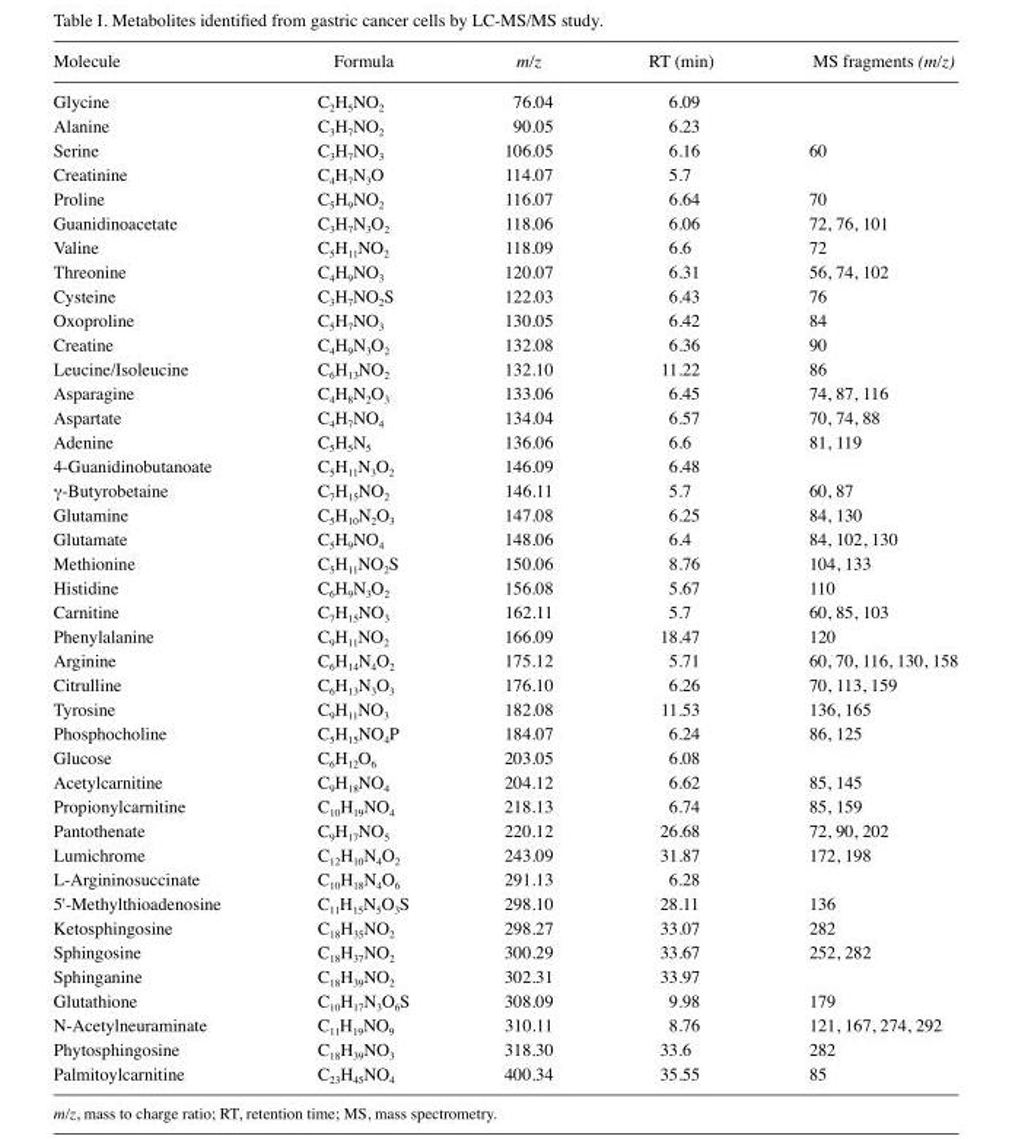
<table><thead><tr><td>Molecule</td><td>Formula</td><td>m/z</td><td>RT (min)</td><td>MS fragments (m/z)</td></tr></thead><tbody><tr><td>Glycine</td><td>C<sub>2</sub>H<sub>5</sub>NO<sub>2</sub></td><td>76.04</td><td>6.09</td><td></td></tr><tr><td>Alanine</td><td>C<sub>3</sub>H<sub>7</sub>NO<sub>2</sub></td><td>90.05</td><td>6.23</td><td></td></tr><tr><td>Serine</td><td>C<sub>3</sub>H<sub>7</sub>NO<sub>3</sub></td><td>106.05</td><td>6.16</td><td>60</td></tr><tr><td>Creatinine</td><td>C<sub>4</sub>H<sub>7</sub>N<sub>3</sub>O</td><td>114.07</td><td>5.7</td><td></td></tr><tr><td>Proline</td><td>C<sub>5</sub>H<sub>9</sub>NO<sub>2</sub></td><td>116.07</td><td>6.64</td><td>70</td></tr><tr><td>Guanidinoacetate</td><td>C<sub>3</sub>H<sub>7</sub>N<sub>3</sub>O<sub>2</sub></td><td>118.06</td><td>6.06</td><td>72, 76, 101</td></tr><tr><td>Valine</td><td>C<sub>5</sub>H<sub>11</sub>NO<sub>2</sub></td><td>118.09</td><td>6.6</td><td>72</td></tr><tr><td>Threonine</td><td>C<sub>4</sub>H<sub>9</sub>NO<sub>3</sub></td><td>120.07</td><td>6.31</td><td>56, 74, 102</td></tr><tr><td>Cysteine</td><td>C<sub>3</sub>H<sub>7</sub>NO<sub>2</sub>S</td><td>122.03</td><td>6.43</td><td>76</td></tr><tr><td>Oxoproline</td><td>C<sub>5</sub>H<sub>7</sub>NO<sub>3</sub></td><td>130.05</td><td>6.42</td><td>84</td></tr><tr><td>Creatine</td><td>C<sub>4</sub>H<sub>9</sub>N<sub>3</sub>O<sub>2</sub></td><td>132.08</td><td>6.36</td><td>90</td></tr><tr><td>Leucine/Isoleucine</td><td>C<sub>6</sub>H<sub>13</sub>NO<sub>2</sub></td><td>132.10</td><td>11.22</td><td>86</td></tr><tr><td>Asparagine</td><td>C<sub>4</sub>H<sub>8</sub>N<sub>2</sub>O<sub>3</sub></td><td>133.06</td><td>6.45</td><td>74, 87, 116</td></tr><tr><td>Aspartate</td><td>C<sub>4</sub>H<sub>7</sub>NO<sub>4</sub></td><td>134.04</td><td>6.57</td><td>70, 74, 88</td></tr><tr><td>Adenine</td><td>C<sub>5</sub>H<sub>5</sub>N<sub>5</sub></td><td>136.06</td><td>6.6</td><td>81, 119</td></tr><tr><td>4-Guanidinobutanoate</td><td>C<sub>5</sub>H<sub>11</sub>N<sub>3</sub>O<sub>2</sub></td><td>146.09</td><td>6.48</td><td></td></tr><tr><td>γ-Butyrobetaine</td><td>C<sub>7</sub>H<sub>15</sub>NO<sub>2</sub></td><td>146.11</td><td>5.7</td><td>60, 87</td></tr><tr><td>Glutamine</td><td>C<sub>5</sub>H<sub>10</sub>N<sub>2</sub>O<sub>3</sub></td><td>147.08</td><td>6.25</td><td>84, 130</td></tr><tr><td>Glutamate</td><td>C<sub>5</sub>H<sub>9</sub>NO<sub>4</sub></td><td>148.06</td><td>6.4</td><td>84, 102, 130</td></tr><tr><td>Methionine</td><td>C<sub>5</sub>H<sub>11</sub>NO<sub>2</sub>S</td><td>150.06</td><td>8.76</td><td>104, 133</td></tr><tr><td>Histidine</td><td>C<sub>6</sub>H<sub>9</sub>N<sub>3</sub>O<sub>2</sub></td><td>156.08</td><td>5.67</td><td>110</td></tr><tr><td>Carnitine</td><td>C<sub>7</sub>H<sub>15</sub>NO<sub>3</sub></td><td>162.11</td><td>5.7</td><td>60, 85, 103</td></tr><tr><td>Phenylalanine</td><td>C<sub>9</sub>H<sub>11</sub>NO<sub>2</sub></td><td>166.09</td><td>18.47</td><td>120</td></tr><tr><td>Arginine</td><td>C<sub>6</sub>H<sub>14</sub>N<sub>4</sub>O<sub>2</sub></td><td>175.12</td><td>5.71</td><td>60, 70, 116, 130, 158</td></tr><tr><td>Citrulline</td><td>C<sub>6</sub>H<sub>13</sub>N<sub>3</sub>O<sub>3</sub></td><td>176.10</td><td>6.26</td><td>70, 113, 159</td></tr><tr><td>Tyrosine</td><td>C<sub>9</sub>H<sub>11</sub>NO<sub>3</sub></td><td>182.08</td><td>11.53</td><td>136, 165</td></tr><tr><td>Phosphocholine</td><td>C<sub>5</sub>H<sub>15</sub>NO<sub>4</sub>P</td><td>184.07</td><td>6.24</td><td>86, 125</td></tr><tr><td>Glucose</td><td>C<sub>6</sub>H<sub>12</sub>O<sub>6</sub></td><td>203.05</td><td>6.08</td><td></td></tr><tr><td>Acetylcarnitine</td><td>C<sub>9</sub>H<sub>18</sub>NO<sub>4</sub></td><td>204.12</td><td>6.62</td><td>85, 145</td></tr><tr><td>Propionylcarnitine</td><td>C<sub>10</sub>H<sub>19</sub>NO<sub>4</sub></td><td>218.13</td><td>6.74</td><td>85, 159</td></tr><tr><td>Pantothenate</td><td>C<sub>9</sub>H<sub>17</sub>NO<sub>5</sub></td><td>220.12</td><td>26.68</td><td>72, 90, 202</td></tr><tr><td>Lumichrome</td><td>C<sub>12</sub>H<sub>10</sub>N<sub>4</sub>O<sub>2</sub></td><td>243.09</td><td>31.87</td><td>172, 198</td></tr><tr><td>L-Argininosuccinate</td><td>C<sub>10</sub>H<sub>18</sub>N<sub>4</sub>O<sub>6</sub></td><td>291.13</td><td>6.28</td><td></td></tr><tr><td>5&#x27;-Methylthioadenosine</td><td>C<sub>11</sub>H<sub>15</sub>N<sub>5</sub>O<sub>3</sub>S</td><td>298.10</td><td>28.11</td><td>136</td></tr><tr><td>Ketosphingosine</td><td>C<sub>18</sub>H<sub>35</sub>NO<sub>2</sub></td><td>298.27</td><td>33.07</td><td>282</td></tr><tr><td>Sphingosine</td><td>C<sub>18</sub>H<sub>37</sub>NO<sub>2</sub></td><td>300.29</td><td>33.67</td><td>252, 282</td></tr><tr><td>Sphinganine</td><td>C<sub>18</sub>H<sub>39</sub>NO<sub>2</sub></td><td>302.31</td><td>33.97</td><td></td></tr><tr><td>Glutathione</td><td>C<sub>10</sub>H<sub>17</sub>N<sub>3</sub>O<sub>6</sub>S</td><td>308.09</td><td>9.98</td><td>179</td></tr><tr><td>N-Acetylneuraminate</td><td>C<sub>11</sub>H<sub>19</sub>NO<sub>9</sub></td><td>310.11</td><td>8.76</td><td>121, 167, 274, 292</td></tr><tr><td>Phytosphingosine</td><td>C<sub>18</sub>H<sub>39</sub>NO<sub>3</sub></td><td>318.30</td><td>33.6</td><td>282</td></tr><tr><td>Palmitoylcarnitine</td><td>C<sub>23</sub>H<sub>45</sub>NO<sub>4</sub></td><td>400.34</td><td>35.55</td><td>85</td></tr></tbody></table>